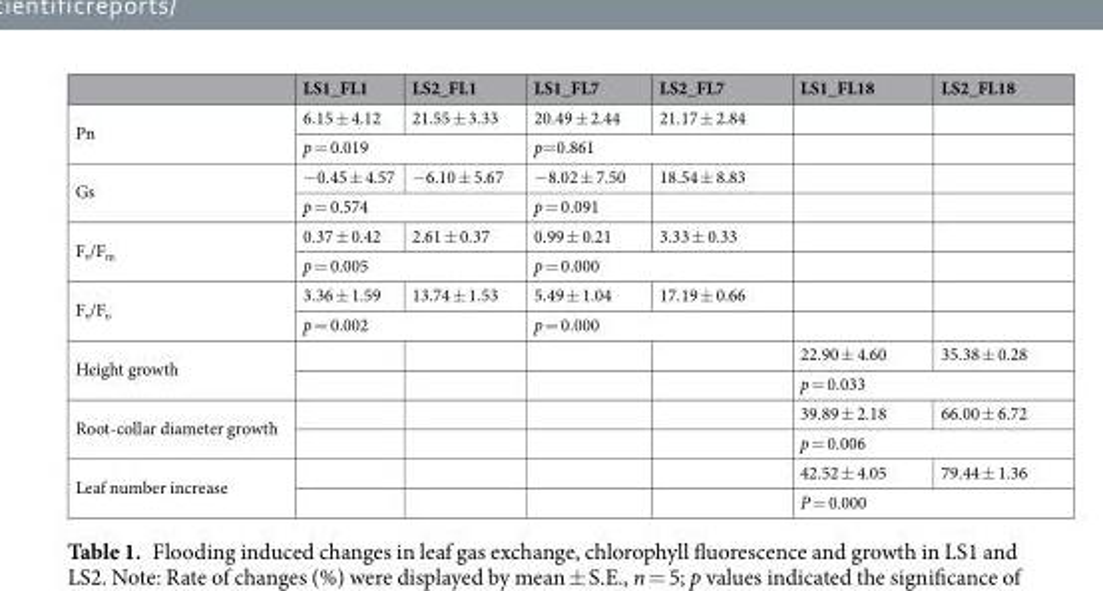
<table><thead><tr><td></td><td>LS1_FL1</td><td>LS2_FL1</td><td>LS1_FL7</td><td>LS2_FL7</td><td>LS1_FL18</td><td>LS2_FL18</td></tr></thead><tbody><tr><td rowspan="2">Pn</td><td>6.15 ± 4.12</td><td>21.55 ± 3.33</td><td>20.49 ± 2.44</td><td>21.17 ± 2.84</td><td></td><td></td></tr><tr><td colspan="2">p = 0.019</td><td colspan="2">p=0.861</td><td></td><td></td></tr><tr><td rowspan="2">Gs</td><td>−0.45 ± 4.57</td><td>−6.10 ± 5.67</td><td>−8.02 ± 7.50</td><td>18.54 ± 8.83</td><td></td><td></td></tr><tr><td colspan="2">p = 0.574</td><td>p = 0.091</td><td></td><td></td><td></td></tr><tr><td rowspan="2">F<sub>v</sub>/F<sub>m</sub></td><td>0.37 ± 0.42</td><td>2.61 ± 0.37</td><td>0.99 ± 0.21</td><td>3.33 ± 0.33</td><td></td><td></td></tr><tr><td colspan="2">p = 0.005</td><td colspan="2">p = 0.000</td><td></td><td></td></tr><tr><td rowspan="2">F<sub>v</sub>/F<sub>o</sub></td><td>3.36 ± 1.59</td><td>13.74 ± 1.53</td><td>5.49 ± 1.04</td><td>17.19 ± 0.66</td><td></td><td></td></tr><tr><td colspan="2">p = 0.002</td><td colspan="2">p = 0.000</td><td></td><td></td></tr><tr><td rowspan="2">Height growth</td><td></td><td></td><td></td><td></td><td>22.90 ± 4.60</td><td>35.38 ± 0.28</td></tr><tr><td></td><td></td><td></td><td></td><td colspan="2">p = 0.033</td></tr><tr><td rowspan="2">Root-collar diameter growth</td><td></td><td></td><td></td><td></td><td>39.89 ± 2.18</td><td>66.00 ± 6.72</td></tr><tr><td></td><td></td><td></td><td></td><td colspan="2">p = 0.006</td></tr><tr><td rowspan="2">Leaf number increase</td><td></td><td></td><td></td><td></td><td>42.52 ± 4.05</td><td>79.44 ± 1.36</td></tr><tr><td></td><td></td><td></td><td></td><td colspan="2">P = 0.000</td></tr></tbody></table>